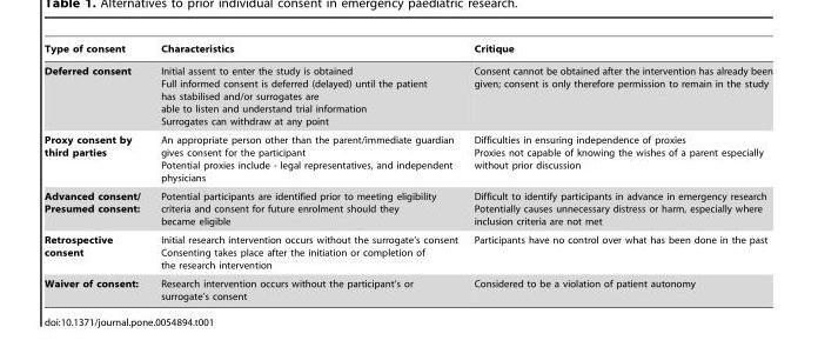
<table><thead><tr><td>Type of consent</td><td>Characteristics</td><td>Critique</td></tr></thead><tbody><tr><td>Deferred consent</td><td>Initial assent to enter the study is obtained Full informed consent is deferred (delayed) until the patient has stabilised and/or surrogates are able to listen and understand trial information Surrogates can withdraw at any point</td><td>Consent cannot be obtained after the intervention has already been given; consent is only therefore permission to remain in the study</td></tr><tr><td>Proxy consent by third parties</td><td>An appropriate person other than the parent/immediate guardian gives consent for the participant Potential proxies include - legal representatives, and independent physicians</td><td>Difficulties in ensuring independence of proxies Proxies not capable of knowing the wishes of a parent especially without prior discussion</td></tr><tr><td>Advanced consent/ Presumed consent:</td><td>Potential participants are identified prior to meeting eligibility criteria and consent for future enrolment should they became eligible</td><td>Difficult to identify participants in advance in emergency research Potentially causes unnecessary distress or harm, especially where inclusion criteria are not met</td></tr><tr><td>Retrospective consent</td><td>Initial research intervention occurs without the surrogate’s consent Consenting takes place after the initiation or completion of the research intervention</td><td>Participants have no control over what has been done in the past</td></tr><tr><td>Waiver of consent:</td><td>Research intervention occurs without the participant’s or surrogate’s consent</td><td>Considered to be a violation of patient autonomy</td></tr></tbody></table>